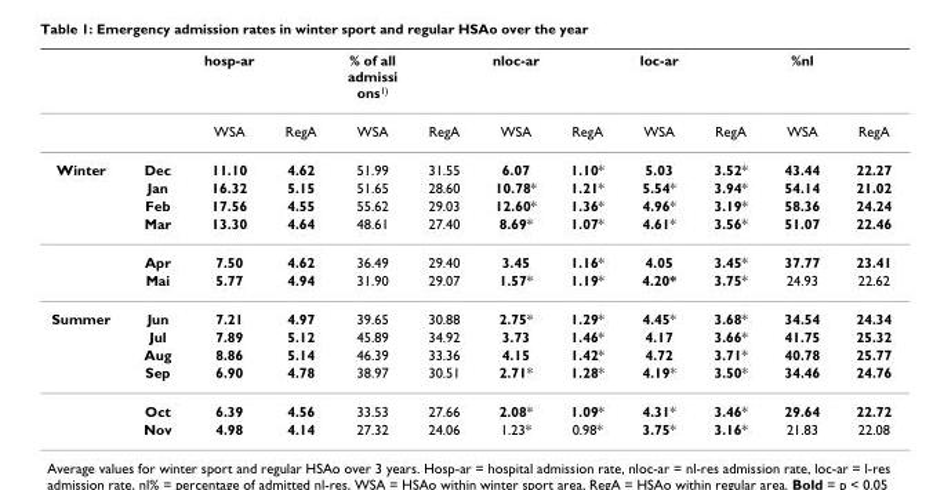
<table><thead><tr><td></td><td></td><td>hosp-ar</td><td></td><td>% of all admissi ons1)</td><td></td><td>nloc-ar</td><td></td><td>loc-ar</td><td></td><td>%nl</td><td></td></tr></thead><tbody><tr><td></td><td></td><td>WSA</td><td>RegA</td><td>WSA</td><td>RegA</td><td>WSA</td><td>RegA</td><td>WSA</td><td>RegA</td><td>WSA</td><td>RegA</td></tr><tr><td rowspan="6">Winter</td><td>Dec</td><td>11.10</td><td>4.62</td><td>51.99</td><td>31.55</td><td>6.07</td><td>1.10*</td><td>5.03</td><td>3.52*</td><td>43.44</td><td>22.27</td></tr><tr><td>Jan</td><td>16.32</td><td>5.15</td><td>51.65</td><td>28.60</td><td>10.78*</td><td>1.21*</td><td>5.54*</td><td>3.94*</td><td>54.14</td><td>21.02</td></tr><tr><td>Feb</td><td>17.56</td><td>4.55</td><td>55.62</td><td>29.03</td><td>12.60*</td><td>1.36*</td><td>4.96*</td><td>3.19*</td><td>58.36</td><td>24.24</td></tr><tr><td>Mar</td><td>13.30</td><td>4.64</td><td>48.61</td><td>27.40</td><td>8.69*</td><td>1.07*</td><td>4.61*</td><td>3.56*</td><td>51.07</td><td>22.46</td></tr><tr><td>Apr</td><td>7.50</td><td>4.62</td><td>36.49</td><td>29.40</td><td>3.45</td><td>1.16*</td><td>4.05</td><td>3.45*</td><td>37.77</td><td>23.41</td></tr><tr><td>Mai</td><td>5.77</td><td>4.94</td><td>31.90</td><td>29.07</td><td>1.57*</td><td>1.19*</td><td>4.20*</td><td>3.75*</td><td>24.93</td><td>22.62</td></tr><tr><td rowspan="6">Summer</td><td>Jun</td><td>7.21</td><td>4.97</td><td>39.65</td><td>30.88</td><td>2.75*</td><td>1.29*</td><td>4.45*</td><td>3.68*</td><td>34.54</td><td>24.34</td></tr><tr><td>Jul</td><td>7.89</td><td>5.12</td><td>45.89</td><td>34.92</td><td>3.73</td><td>1.46*</td><td>4.17</td><td>3.66*</td><td>41.75</td><td>25.32</td></tr><tr><td>Aug</td><td>8.86</td><td>5.14</td><td>46.39</td><td>33.36</td><td>4.15</td><td>1.42*</td><td>4.72</td><td>3.71*</td><td>40.78</td><td>25.77</td></tr><tr><td>Sep</td><td>6.90</td><td>4.78</td><td>38.97</td><td>30.51</td><td>2.71*</td><td>1.28*</td><td>4.19*</td><td>3.50*</td><td>34.46</td><td>24.76</td></tr><tr><td>Oct</td><td>6.39</td><td>4.56</td><td>33.53</td><td>27.66</td><td>2.08*</td><td>1.09*</td><td>4.31*</td><td>3.46*</td><td>29.64</td><td>22.72</td></tr><tr><td>Nov</td><td>4.98</td><td>4.14</td><td>27.32</td><td>24.06</td><td>1.23*</td><td>0.98*</td><td>3.75*</td><td>3.16*</td><td>21.83</td><td>22.08</td></tr></tbody></table>